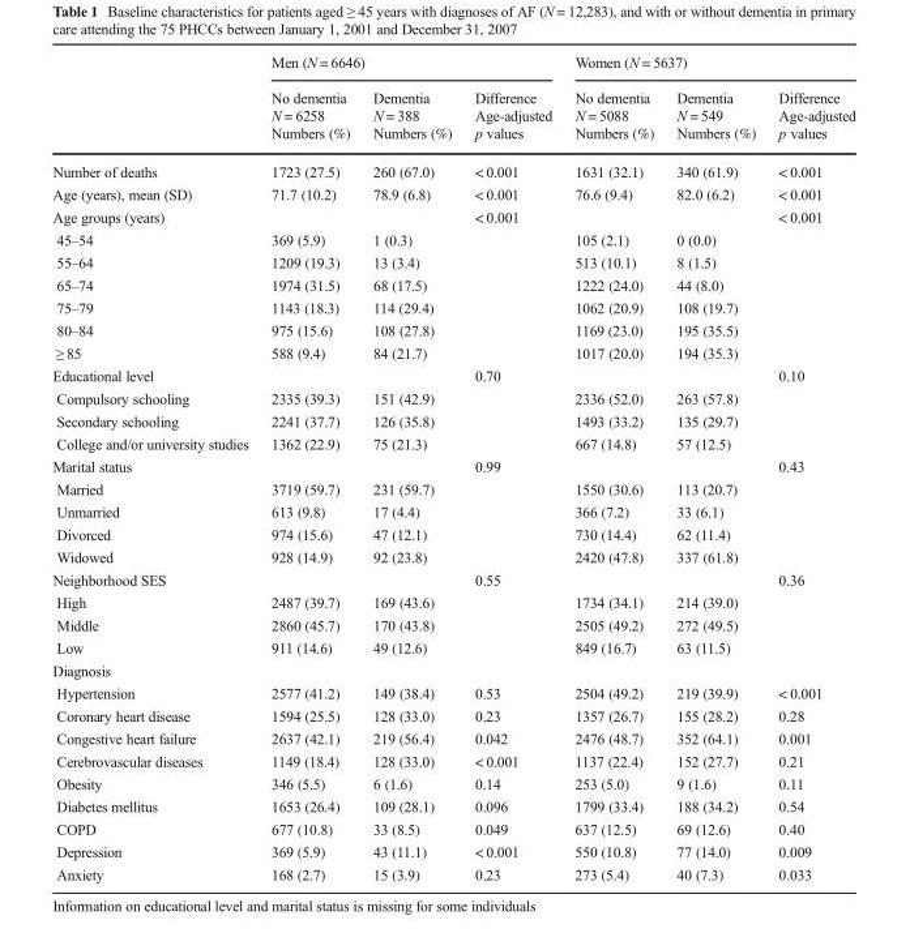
<table><thead><tr><td rowspan="4"></td><td colspan="3">Men (N = 6646)</td><td colspan="3">Women (N = 5637)</td></tr><tr><td rowspan="3">No dementia N = 6258 Numbers (%)</td><td rowspan="3">Dementia N = 388 Numbers (%)</td><td rowspan="3">Difference Age-adjusted p values</td><td rowspan="3">No dementia N = 5088 Numbers (%)</td><td rowspan="3">Dementia N = 549 Numbers (%)</td><td rowspan="3">Difference Age-adjusted p values</td></tr><tr></tr><tr></tr></thead><tbody><tr><td>Number of deaths</td><td>1723 (27.5)</td><td>260 (67.0)</td><td>&lt; 0.001</td><td>1631 (32.1)</td><td>340 (61.9)</td><td>&lt; 0.001</td></tr><tr><td>Age (years), mean (SD)</td><td>71.7 (10.2)</td><td>78.9 (6.8)</td><td>&lt; 0.001</td><td>76.6 (9.4)</td><td>82.0 (6.2)</td><td>&lt; 0.001</td></tr><tr><td>Age groups (years)</td><td></td><td></td><td>&lt; 0.001</td><td></td><td></td><td>&lt; 0.001</td></tr><tr><td>45–54</td><td>369 (5.9)</td><td>1 (0.3)</td><td></td><td>105 (2.1)</td><td>0 (0.0)</td><td></td></tr><tr><td>55–64</td><td>1209 (19.3)</td><td>13 (3.4)</td><td></td><td>513 (10.1)</td><td>8 (1.5)</td><td></td></tr><tr><td>65–74</td><td>1974 (31.5)</td><td>68 (17.5)</td><td></td><td>1222 (24.0)</td><td>44 (8.0)</td><td></td></tr><tr><td>75–79</td><td>1143 (18.3)</td><td>114 (29.4)</td><td></td><td>1062 (20.9)</td><td>108 (19.7)</td><td></td></tr><tr><td>80–84</td><td>975 (15.6)</td><td>108 (27.8)</td><td></td><td>1169 (23.0)</td><td>195 (35.5)</td><td></td></tr><tr><td>≥ 85</td><td>588 (9.4)</td><td>84 (21.7)</td><td></td><td>1017 (20.0)</td><td>194 (35.3)</td><td></td></tr><tr><td>Educational level</td><td></td><td></td><td>0.70</td><td></td><td></td><td>0.10</td></tr><tr><td>Compulsory schooling</td><td>2335 (39.3)</td><td>151 (42.9)</td><td></td><td>2336 (52.0)</td><td>263 (57.8)</td><td></td></tr><tr><td>Secondary schooling</td><td>2241 (37.7)</td><td>126 (35.8)</td><td></td><td>1493 (33.2)</td><td>135 (29.7)</td><td></td></tr><tr><td>College and/or university studies</td><td>1362 (22.9)</td><td>75 (21.3)</td><td></td><td>667 (14.8)</td><td>57 (12.5)</td><td></td></tr><tr><td>Marital status</td><td></td><td></td><td>0.99</td><td></td><td></td><td>0.43</td></tr><tr><td>Married</td><td>3719 (59.7)</td><td>231 (59.7)</td><td></td><td>1550 (30.6)</td><td>113 (20.7)</td><td></td></tr><tr><td>Unmarried</td><td>613 (9.8)</td><td>17 (4.4)</td><td></td><td>366 (7.2)</td><td>33 (6.1)</td><td></td></tr><tr><td>Divorced</td><td>974 (15.6)</td><td>47 (12.1)</td><td></td><td>730 (14.4)</td><td>62 (11.4)</td><td></td></tr><tr><td>Widowed</td><td>928 (14.9)</td><td>92 (23.8)</td><td></td><td>2420 (47.8)</td><td>337 (61.8)</td><td></td></tr><tr><td>Neighborhood SES</td><td></td><td></td><td>0.55</td><td></td><td></td><td>0.36</td></tr><tr><td>High</td><td>2487 (39.7)</td><td>169 (43.6)</td><td></td><td>1734 (34.1)</td><td>214 (39.0)</td><td></td></tr><tr><td>Middle</td><td>2860 (45.7)</td><td>170 (43.8)</td><td></td><td>2505 (49.2)</td><td>272 (49.5)</td><td></td></tr><tr><td>Low</td><td>911 (14.6)</td><td>49 (12.6)</td><td></td><td>849 (16.7)</td><td>63 (11.5)</td><td></td></tr><tr><td colspan="7">Diagnosis</td></tr><tr><td>Hypertension</td><td>2577 (41.2)</td><td>149 (38.4)</td><td>0.53</td><td>2504 (49.2)</td><td>219 (39.9)</td><td>&lt; 0.001</td></tr><tr><td>Coronary heart disease</td><td>1594 (25.5)</td><td>128 (33.0)</td><td>0.23</td><td>1357 (26.7)</td><td>155 (28.2)</td><td>0.28</td></tr><tr><td>Congestive heart failure</td><td>2637 (42.1)</td><td>219 (56.4)</td><td>0.042</td><td>2476 (48.7)</td><td>352 (64.1)</td><td>0.001</td></tr><tr><td>Cerebrovascular diseases</td><td>1149 (18.4)</td><td>128 (33.0)</td><td>&lt; 0.001</td><td>1137 (22.4)</td><td>152 (27.7)</td><td>0.21</td></tr><tr><td>Obesity</td><td>346 (5.5)</td><td>6 (1.6)</td><td>0.14</td><td>253 (5.0)</td><td>9 (1.6)</td><td>0.11</td></tr><tr><td>Diabetes mellitus</td><td>1653 (26.4)</td><td>109 (28.1)</td><td>0.096</td><td>1799 (33.4)</td><td>188 (34.2)</td><td>0.54</td></tr><tr><td>COPD</td><td>677 (10.8)</td><td>33 (8.5)</td><td>0.049</td><td>637 (12.5)</td><td>69 (12.6)</td><td>0.40</td></tr><tr><td>Depression</td><td>369 (5.9)</td><td>43 (11.1)</td><td>&lt; 0.001</td><td>550 (10.8)</td><td>77 (14.0)</td><td>0.009</td></tr><tr><td>Anxiety</td><td>168 (2.7)</td><td>15 (3.9)</td><td>0.23</td><td>273 (5.4)</td><td>40 (7.3)</td><td>0.033</td></tr></tbody></table>